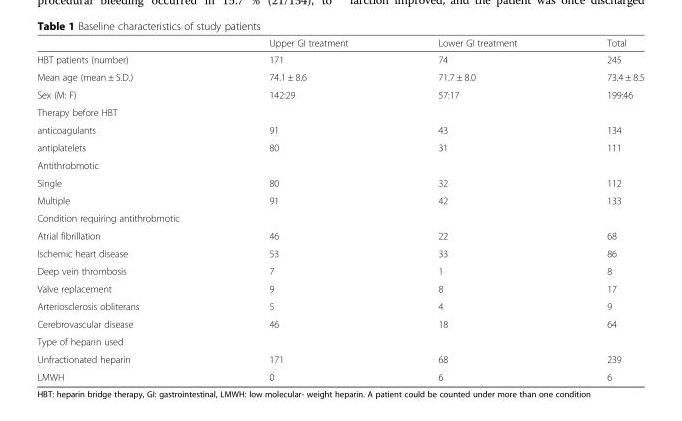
<table><thead><tr><td></td><td>Upper GI treatment</td><td>Lower GI treatment</td><td>Total</td></tr></thead><tbody><tr><td>HBT patients (number)</td><td>171</td><td>74</td><td>245</td></tr><tr><td>Mean age (mean ± S.D.)</td><td>74.1 ± 8.6</td><td>71.7 ± 8.0</td><td>73.4 ± 8.5</td></tr><tr><td>Sex (M: F)</td><td>142:29</td><td>57:17</td><td>199:46</td></tr><tr><td colspan="4">Therapy before HBT</td></tr><tr><td>anticoagulants</td><td>91</td><td>43</td><td>134</td></tr><tr><td>antiplatelets</td><td>80</td><td>31</td><td>111</td></tr><tr><td colspan="4">Antithrobmotic</td></tr><tr><td>Single</td><td>80</td><td>32</td><td>112</td></tr><tr><td>Multiple</td><td>91</td><td>42</td><td>133</td></tr><tr><td colspan="4">Condition requiring antithrobmotic</td></tr><tr><td>Atrial fibrillation</td><td>46</td><td>22</td><td>68</td></tr><tr><td>Ischemic heart disease</td><td>53</td><td>33</td><td>86</td></tr><tr><td>Deep vein thrombosis</td><td>7</td><td>1</td><td>8</td></tr><tr><td>Valve replacement</td><td>9</td><td>8</td><td>17</td></tr><tr><td>Arteriosclerosis obliterans</td><td>5</td><td>4</td><td>9</td></tr><tr><td>Cerebrovascular disease</td><td>46</td><td>18</td><td>64</td></tr><tr><td colspan="4">Type of heparin used</td></tr><tr><td>Unfractionated heparin</td><td>171</td><td>68</td><td>239</td></tr><tr><td>LMWH</td><td>0</td><td>6</td><td>6</td></tr></tbody></table>